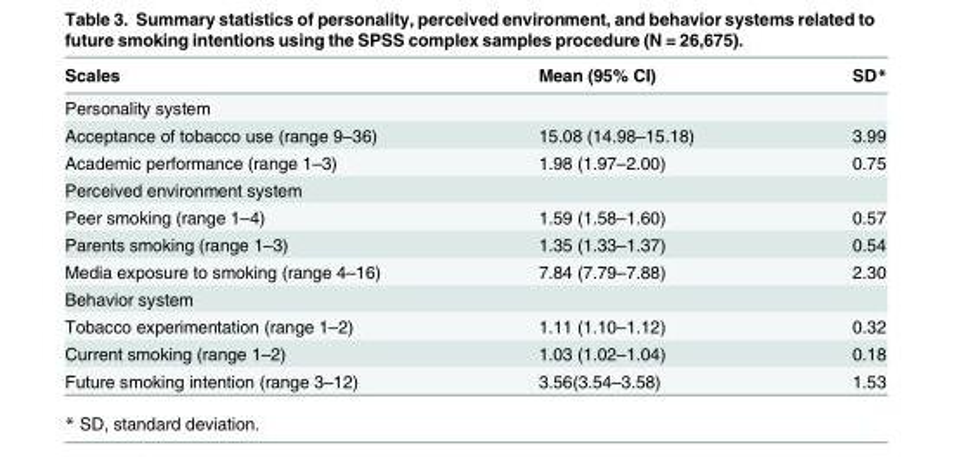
<table><thead><tr><td>Scales</td><td>Mean (95% CI)</td><td>SD*</td></tr></thead><tbody><tr><td colspan="3">Personality system</td></tr><tr><td>Acceptance of tobacco use (range 9–36)</td><td>15.08 (14.98–15.18)</td><td>3.99</td></tr><tr><td>Academic performance (range 1–3)</td><td>1.98 (1.97–2.00)</td><td>0.75</td></tr><tr><td colspan="3">Perceived environment system</td></tr><tr><td>Peer smoking (range 1–4)</td><td>1.59 (1.58–1.60)</td><td>0.57</td></tr><tr><td>Parents smoking (range 1–3)</td><td>1.35 (1.33–1.37)</td><td>0.54</td></tr><tr><td>Media exposure to smoking (range 4–16)</td><td>7.84 (7.79–7.88)</td><td>2.30</td></tr><tr><td colspan="3">Behavior system</td></tr><tr><td>Tobacco experimentation (range 1–2)</td><td>1.11 (1.10–1.12)</td><td>0.32</td></tr><tr><td>Current smoking (range 1–2)</td><td>1.03 (1.02–1.04)</td><td>0.18</td></tr><tr><td>Future smoking intention (range 3–12)</td><td>3.56(3.54–3.58)</td><td>1.53</td></tr></tbody></table>